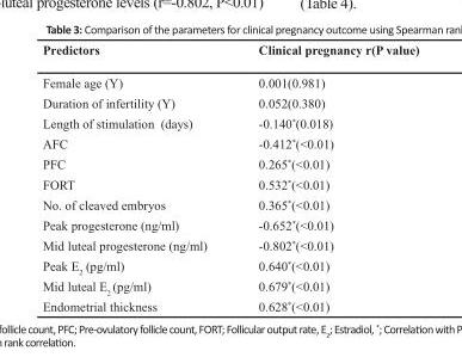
<table><thead><tr><td>Predictors</td><td>Clinical pregnancy r(P value)</td></tr></thead><tbody><tr><td>Female age (Y)</td><td>0.001(0.981)</td></tr><tr><td>Duration of infertility (Y)</td><td>0.052(0.380)</td></tr><tr><td>Length of stimulation (days)</td><td>-0.140*(0.018)</td></tr><tr><td>AFC</td><td>-0.412*(&lt;0.01)</td></tr><tr><td>PFC</td><td>0.265*(&lt;0.01)</td></tr><tr><td>FORT</td><td>0.532*(&lt;0.01)</td></tr><tr><td>No. of cleaved embryos</td><td>0.365*(&lt;0.01)</td></tr><tr><td>Peak progesterone (ng/ml)</td><td>-0.652*(&lt;0.01)</td></tr><tr><td>Mid luteal progesterone (ng/ml)</td><td>-0.802*(&lt;0.01)</td></tr><tr><td>Peak E<sub>2</sub> (pg/ml)</td><td>0.640*(&lt;0.01)</td></tr><tr><td>Mid luteal E<sub>2</sub> (pg/ml)</td><td>0.679*(&lt;0.01)</td></tr><tr><td>Endometrial thickness</td><td>0.628*(&lt;0.01)</td></tr></tbody></table>